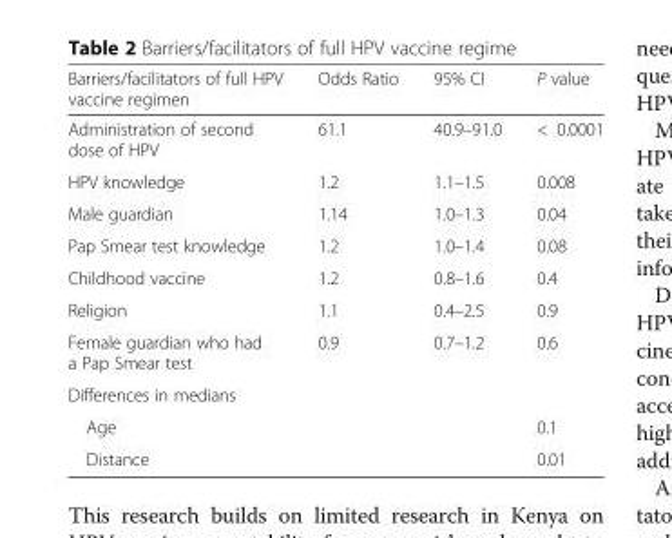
<table><thead><tr><td>Barriers/facilitators of full HPV vaccine regimen</td><td>Odds Ratio</td><td>95% CI</td><td>P value</td></tr></thead><tbody><tr><td>Administration of second dose of HPV</td><td>61.1</td><td>40.9–91.0</td><td>&lt; 0.0001</td></tr><tr><td>HPV knowledge</td><td>1.2</td><td>1.1–1.5</td><td>0.008</td></tr><tr><td>Male guardian</td><td>1.14</td><td>1.0–1.3</td><td>0.04</td></tr><tr><td>Pap Smear test knowledge</td><td>1.2</td><td>1.0–1.4</td><td>0.08</td></tr><tr><td>Childhood vaccine</td><td>1.2</td><td>0.8–1.6</td><td>0.4</td></tr><tr><td>Religion</td><td>1.1</td><td>0.4–2.5</td><td>0.9</td></tr><tr><td>Female guardian who had a Pap Smear test</td><td>0.9</td><td>0.7–1.2</td><td>0.6</td></tr><tr><td colspan="4">Differences in medians</td></tr><tr><td>Age</td><td></td><td></td><td>0.1</td></tr><tr><td>Distance</td><td></td><td></td><td>0.01</td></tr></tbody></table>